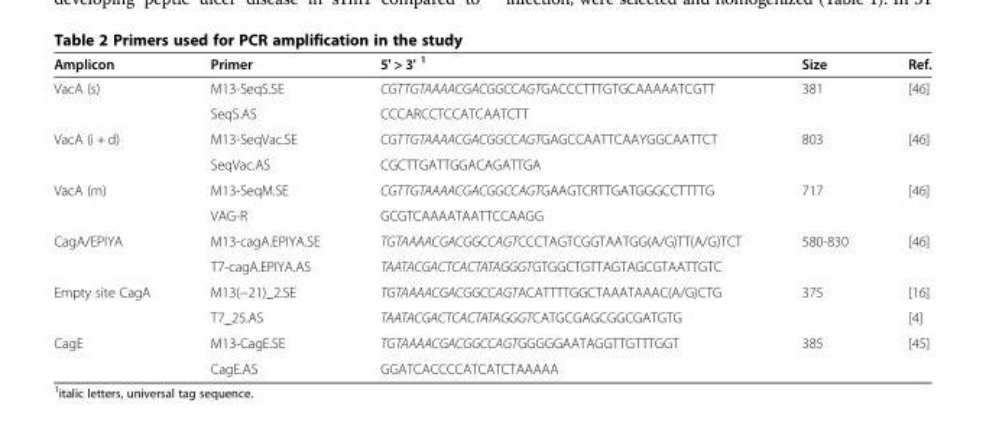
<table><thead><tr><td>Amplicon</td><td>Primer</td><td>5&#x27; &gt; 3&#x27; <sup>1</sup></td><td>Size</td><td>Ref.</td></tr></thead><tbody><tr><td rowspan="2">VacA (s)</td><td>M13-SeqS.SE</td><td>CGTTGTAAAACGACGGCCAGTGACCCTTTGTGCAAAAATCGTT</td><td rowspan="2">381</td><td rowspan="2">[46]</td></tr><tr><td>SeqS.AS</td><td>CCCARCCTCCATCAATCTT</td></tr><tr><td rowspan="2">VacA (i + d)</td><td>M13-SeqVac.SE</td><td>CGTTGTAAAACGACGGCCAGTGAGCCAATTCAAYGGCAATTCT</td><td rowspan="2">803</td><td rowspan="2">[46]</td></tr><tr><td>SeqVac.AS</td><td>CGCTTGATTGGACAGATTGA</td></tr><tr><td rowspan="2">VacA (m)</td><td>M13-SeqM.SE</td><td>CGTTGTAAAACGACGGCCAGTGAAGTCRTTGATGGGCCTTTTG</td><td rowspan="2">717</td><td rowspan="2">[46]</td></tr><tr><td>VAG-R</td><td>GCGTCAAAATAATTCCAAGG</td></tr><tr><td rowspan="2">CagA/EPIYA</td><td>M13-cagA.EPIYA.SE</td><td>TGTAAAACGACGGCCAGTCCCTAGTCGGTAATGG(A/G)TT(A/G)TCT</td><td rowspan="2">580-830</td><td rowspan="2">[46]</td></tr><tr><td>T7-cagA.EPIYA.AS</td><td>TAATACGACTCACTATAGGGTGTGGCTGTTAGTAGCGTAATTGTC</td></tr><tr><td rowspan="2">Empty site CagA</td><td>M13(−21)_2.SE</td><td>TGTAAAACGACGGCCAGTACATTTTGGCTAAATAAAC(A/G)CTG</td><td rowspan="2">375</td><td>[16]</td></tr><tr><td>T7_25.AS</td><td>TAATACGACTCACTATAGGGTCATGCGAGCGGCGATGTG</td><td>[4]</td></tr><tr><td rowspan="2">CagE</td><td>M13-CagE.SE</td><td>TGTAAAACGACGGCCAGTGGGGGAATAGGTTGTTTGGT</td><td>385</td><td>[45]</td></tr><tr><td>CagE.AS</td><td>GGATCACCCCATCATCTAAAAA</td><td></td><td></td></tr></tbody></table>